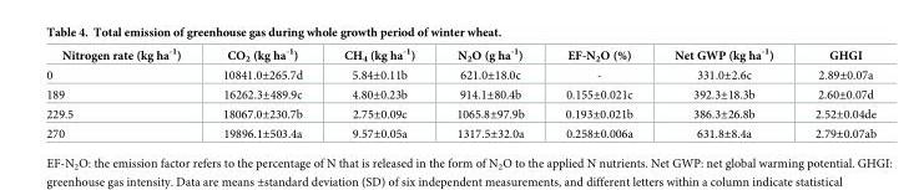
<table><thead><tr><td>Nitrogen rate (kg ha<sup>-1</sup>)</td><td>CO<sub>2</sub> (kg ha<sup>-1</sup>)</td><td>CH<sub>4</sub> (kg ha<sup>-1</sup>)</td><td>N<sub>2</sub>O (g ha<sup>-1</sup>)</td><td>EF-N<sub>2</sub>O (%)</td><td>Net GWP (kg ha<sup>-1</sup>)</td><td>GHGI</td></tr></thead><tbody><tr><td>0</td><td>10841.0±265.7d</td><td>5.84±0.11b</td><td>621.0±18.0c</td><td>-</td><td>331.0±2.6c</td><td>2.89±0.07a</td></tr><tr><td>189</td><td>16262.3±489.9c</td><td>4.80±0.23b</td><td>914.1±80.4b</td><td>0.155±0.021c</td><td>392.3±18.3b</td><td>2.60±0.07d</td></tr><tr><td>229.5</td><td>18067.0±230.7b</td><td>2.75±0.09c</td><td>1065.8±97.9b</td><td>0.193±0.021b</td><td>386.3±26.8b</td><td>2.52±0.04de</td></tr><tr><td>270</td><td>19896.1±503.4a</td><td>9.57±0.05a</td><td>1317.5±32.0a</td><td>0.258±0.006a</td><td>631.8±8.4a</td><td>2.79±0.07ab</td></tr></tbody></table>